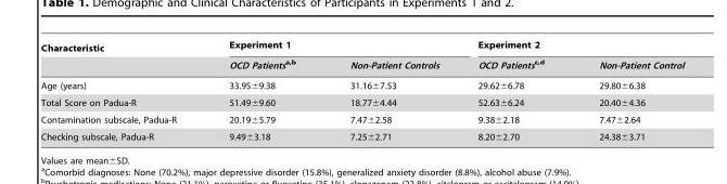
<table><thead><tr><td rowspan="2">Characteristic</td><td colspan="2">Experiment 1</td><td colspan="2">Experiment 2</td></tr><tr><td>OCD Patientsa<sup>,</sup>b</td><td>Non-Patient Controls</td><td>OCD Patientsc<sup>,</sup>d</td><td>Non-Patient Control</td></tr></thead><tbody><tr><td>Age (years)</td><td>33.95±9.38</td><td>31.16±7.53</td><td>29.62±6.78</td><td>29.80±6.38</td></tr><tr><td>Total Score on Padua-R</td><td>51.49±9.60</td><td>18.77±4.44</td><td>52.63±6.24</td><td>20.40±4.36</td></tr><tr><td>Contamination subscale, Padua-R</td><td>20.19±5.79</td><td>7.47±2.58</td><td>9.38±2.18</td><td>7.47±2.64</td></tr><tr><td>Checking subscale, Padua-R</td><td>9.49±3.18</td><td>7.25±2.71</td><td>8.20±2.70</td><td>24.38±3.71</td></tr></tbody></table>